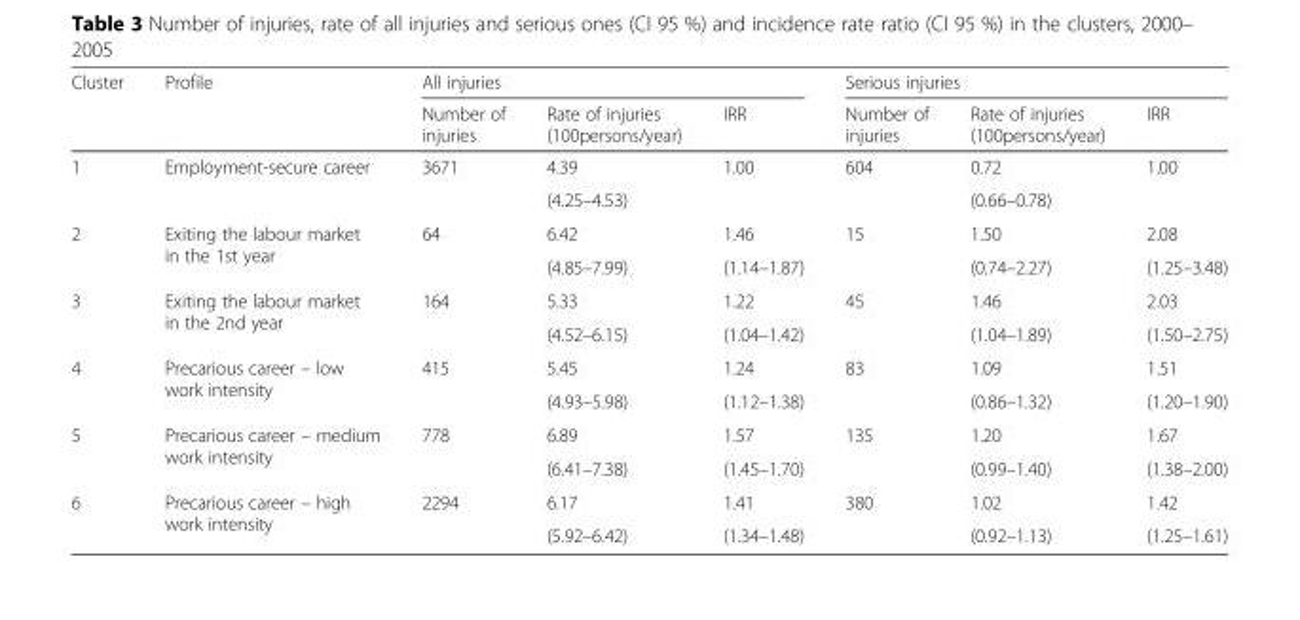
<table><thead><tr><td rowspan="2">Cluster</td><td rowspan="2">Profile</td><td colspan="3">All injuries</td><td colspan="3">Serious injuries</td></tr><tr><td>Number of injuries</td><td>Rate of injuries (100persons/year)</td><td>IRR</td><td>Number of injuries</td><td>Rate of injuries (100persons/year)</td><td>IRR</td></tr></thead><tbody><tr><td rowspan="2">1</td><td rowspan="2">Employment-secure career</td><td rowspan="2">3671</td><td>4.39</td><td rowspan="2">1.00</td><td rowspan="2">604</td><td>0.72</td><td rowspan="2">1.00</td></tr><tr><td>(4.25–4.53)</td><td>(0.66–0.78)</td></tr><tr><td rowspan="2">2</td><td rowspan="2">Exiting the labour market in the 1st year</td><td rowspan="2">64</td><td>6.42</td><td>1.46</td><td rowspan="2">15</td><td>1.50</td><td>2.08</td></tr><tr><td>(4.85–7.99)</td><td>(1.14–1.87)</td><td>(0.74–2.27)</td><td>(1.25–3.48)</td></tr><tr><td rowspan="2">3</td><td rowspan="2">Exiting the labour market in the 2nd year</td><td rowspan="2">164</td><td>5.33</td><td>1.22</td><td rowspan="2">45</td><td>1.46</td><td>2.03</td></tr><tr><td>(4.52–6.15)</td><td>(1.04–1.42)</td><td>(1.04–1.89)</td><td>(1.50–2.75)</td></tr><tr><td rowspan="2">4</td><td rowspan="2">Precarious career – low work intensity</td><td rowspan="2">415</td><td>5.45</td><td>1.24</td><td rowspan="2">83</td><td>1.09</td><td>1.51</td></tr><tr><td>(4.93–5.98)</td><td>(1.12–1.38)</td><td>(0.86–1.32)</td><td>(1.20–1.90)</td></tr><tr><td rowspan="2">5</td><td rowspan="2">Precarious career – medium work intensity</td><td rowspan="2">778</td><td>6.89</td><td>1.57</td><td rowspan="2">135</td><td>1.20</td><td>1.67</td></tr><tr><td>(6.41–7.38)</td><td>(1.45–1.70)</td><td>(0.99–1.40)</td><td>(1.38–2.00)</td></tr><tr><td rowspan="2">6</td><td rowspan="2">Precarious career – high work intensity</td><td rowspan="2">2294</td><td>6.17</td><td>1.41</td><td rowspan="2">380</td><td>1.02</td><td>1.42</td></tr><tr><td>(5.92–6.42)</td><td>(1.34–1.48)</td><td>(0.92–1.13)</td><td>(1.25–1.61)</td></tr></tbody></table>